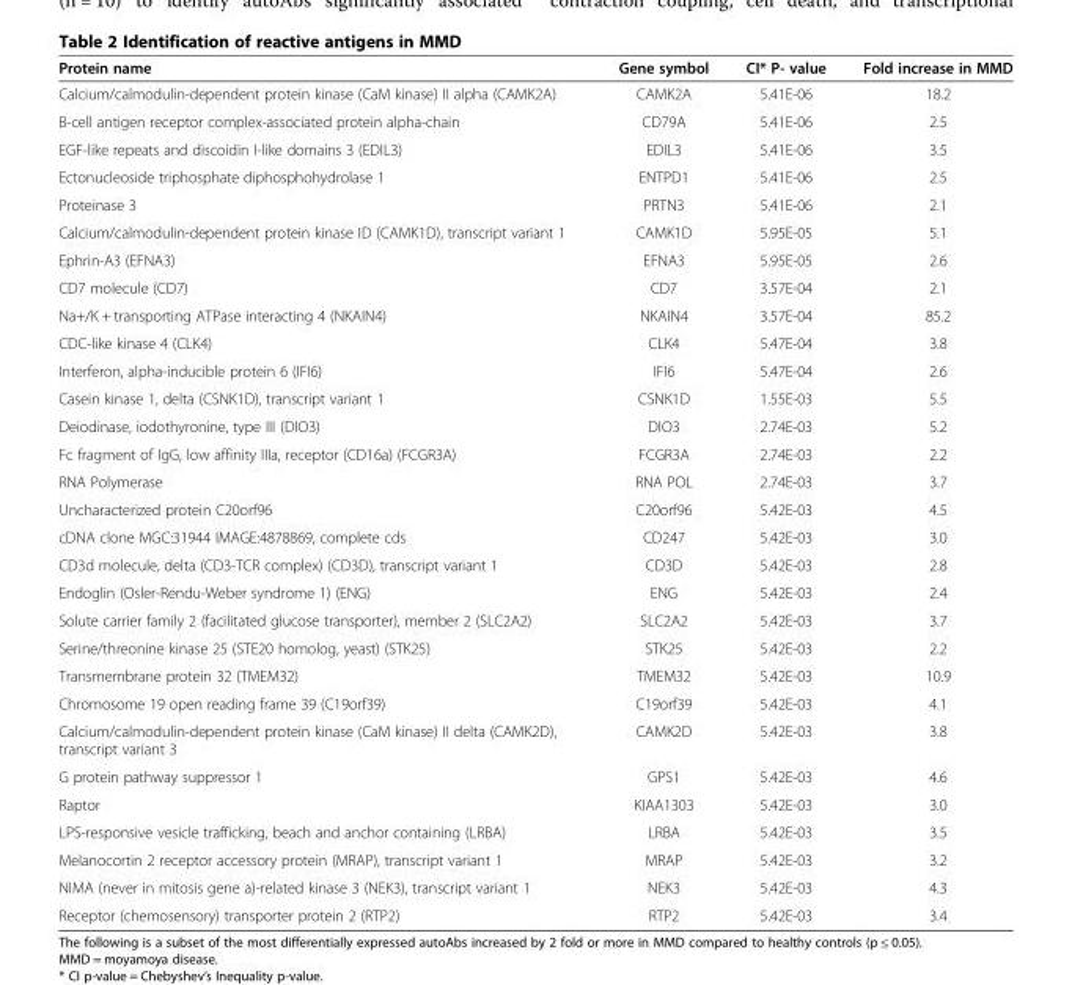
<table><thead><tr><td>Protein name</td><td>Gene symbol</td><td>CI* P- value</td><td>Fold increase in MMD</td></tr></thead><tbody><tr><td>Calcium/calmodulin-dependent protein kinase (CaM kinase) II alpha (CAMK2A)</td><td>CAMK2A</td><td>5.41E-06</td><td>18.2</td></tr><tr><td>B-cell antigen receptor complex-associated protein alpha-chain</td><td>CD79A</td><td>5.41E-06</td><td>2.5</td></tr><tr><td>EGF-like repeats and discoidin I-like domains 3 (EDIL3)</td><td>EDIL3</td><td>5.41E-06</td><td>3.5</td></tr><tr><td>Ectonucleoside triphosphate diphosphohydrolase 1</td><td>ENTPD1</td><td>5.41E-06</td><td>2.5</td></tr><tr><td>Proteinase 3</td><td>PRTN3</td><td>5.41E-06</td><td>2.1</td></tr><tr><td>Calcium/calmodulin-dependent protein kinase ID (CAMK1D), transcript variant 1</td><td>CAMK1D</td><td>5.95E-05</td><td>5.1</td></tr><tr><td>Ephrin-A3 (EFNA3)</td><td>EFNA3</td><td>5.95E-05</td><td>2.6</td></tr><tr><td>CD7 molecule (CD7)</td><td>CD7</td><td>3.57E-04</td><td>2.1</td></tr><tr><td>Na+/K + transporting ATPase interacting 4 (NKAIN4)</td><td>NKAIN4</td><td>3.57E-04</td><td>85.2</td></tr><tr><td>CDC-like kinase 4 (CLK4)</td><td>CLK4</td><td>5.47E-04</td><td>3.8</td></tr><tr><td>Interferon, alpha-inducible protein 6 (IFI6)</td><td>IFI6</td><td>5.47E-04</td><td>2.6</td></tr><tr><td>Casein kinase 1, delta (CSNK1D), transcript variant 1</td><td>CSNK1D</td><td>1.55E-03</td><td>5.5</td></tr><tr><td>Deiodinase, iodothyronine, type III (DIO3)</td><td>DIO3</td><td>2.74E-03</td><td>5.2</td></tr><tr><td>Fc fragment of IgG, low affinity IIIa, receptor (CD16a) (FCGR3A)</td><td>FCGR3A</td><td>2.74E-03</td><td>2.2</td></tr><tr><td>RNA Polymerase</td><td>RNA POL</td><td>2.74E-03</td><td>3.7</td></tr><tr><td>Uncharacterized protein C20orf96</td><td>C20orf96</td><td>5.42E-03</td><td>4.5</td></tr><tr><td>cDNA clone MGC:31944 IMAGE:4878869, complete cds</td><td>CD247</td><td>5.42E-03</td><td>3.0</td></tr><tr><td>CD3d molecule, delta (CD3-TCR complex) (CD3D), transcript variant 1</td><td>CD3D</td><td>5.42E-03</td><td>2.8</td></tr><tr><td>Endoglin (Osler-Rendu-Weber syndrome 1) (ENG)</td><td>ENG</td><td>5.42E-03</td><td>2.4</td></tr><tr><td>Solute carrier family 2 (facilitated glucose transporter), member 2 (SLC2A2)</td><td>SLC2A2</td><td>5.42E-03</td><td>3.7</td></tr><tr><td>Serine/threonine kinase 25 (STE20 homolog, yeast) (STK25)</td><td>STK25</td><td>5.42E-03</td><td>2.2</td></tr><tr><td>Transmembrane protein 32 (TMEM32)</td><td>TMEM32</td><td>5.42E-03</td><td>10.9</td></tr><tr><td>Chromosome 19 open reading frame 39 (C19orf39)</td><td>C19orf39</td><td>5.42E-03</td><td>4.1</td></tr><tr><td>Calcium/calmodulin-dependent protein kinase (CaM kinase) II delta (CAMK2D), transcript variant 3</td><td>CAMK2D</td><td>5.42E-03</td><td>3.8</td></tr><tr><td>G protein pathway suppressor 1</td><td>GPS1</td><td>5.42E-03</td><td>4.6</td></tr><tr><td>Raptor</td><td>KIAA1303</td><td>5.42E-03</td><td>3.0</td></tr><tr><td>LPS-responsive vesicle trafficking, beach and anchor containing (LRBA)</td><td>LRBA</td><td>5.42E-03</td><td>3.5</td></tr><tr><td>Melanocortin 2 receptor accessory protein (MRAP), transcript variant 1</td><td>MRAP</td><td>5.42E-03</td><td>3.2</td></tr><tr><td>NIMA (never in mitosis gene a)-related kinase 3 (NEK3), transcript variant 1</td><td>NEK3</td><td>5.42E-03</td><td>4.3</td></tr><tr><td>Receptor (chemosensory) transporter protein 2 (RTP2)</td><td>RTP2</td><td>5.42E-03</td><td>3.4</td></tr></tbody></table>